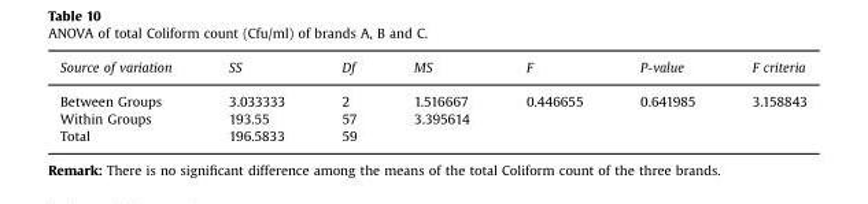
<table><thead><tr><td>Source of variation</td><td>SS</td><td>Df</td><td>MS</td><td>F</td><td>P-value</td><td>F criteria</td></tr></thead><tbody><tr><td>Between Groups</td><td>3.033333</td><td>2</td><td>1.516667</td><td>0.446655</td><td>0.641985</td><td>3.158843</td></tr><tr><td>Within Groups</td><td>193.55</td><td>57</td><td>3.395614</td><td></td><td></td><td></td></tr><tr><td>Total</td><td>196.5833</td><td>59</td><td></td><td></td><td></td><td></td></tr></tbody></table>